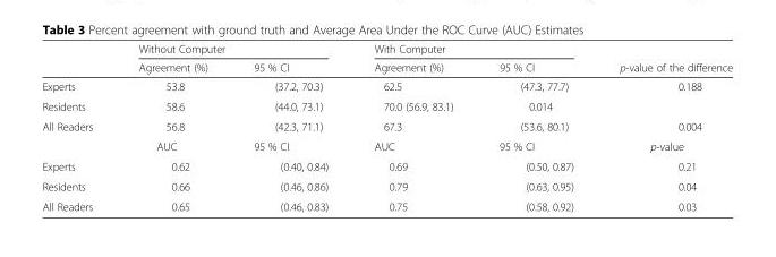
<table><thead><tr><td rowspan="2"></td><td colspan="2">Without Computer</td><td colspan="2">With Computer</td><td rowspan="2">p-value of the difference</td></tr><tr><td>Agreement (%)</td><td>95 % CI</td><td>Agreement (%)</td><td>95 % CI</td></tr></thead><tbody><tr><td>Experts</td><td>53.8</td><td>(37.2, 70.3)</td><td>62.5</td><td>(47.3, 77.7)</td><td>0.188</td></tr><tr><td>Residents</td><td>58.6</td><td>(44.0, 73.1)</td><td>70.0 (56.9, 83.1)</td><td>0.014</td><td></td></tr><tr><td rowspan="2">All Readers</td><td>56.8</td><td>(42.3, 71.1)</td><td>67.3</td><td>(53.6, 80.1)</td><td>0.004</td></tr><tr><td>AUC</td><td>95 % CI</td><td>AUC</td><td>95 % CI</td><td>p-value</td></tr><tr><td>Experts</td><td>0.62</td><td>(0.40, 0.84)</td><td>0.69</td><td>(0.50, 0.87)</td><td>0.21</td></tr><tr><td>Residents</td><td>0.66</td><td>(0.46, 0.86)</td><td>0.79</td><td>(0.63, 0.95)</td><td>0.04</td></tr><tr><td>All Readers</td><td>0.65</td><td>(0.46, 0.83)</td><td>0.75</td><td>(0.58, 0.92)</td><td>0.03</td></tr></tbody></table>